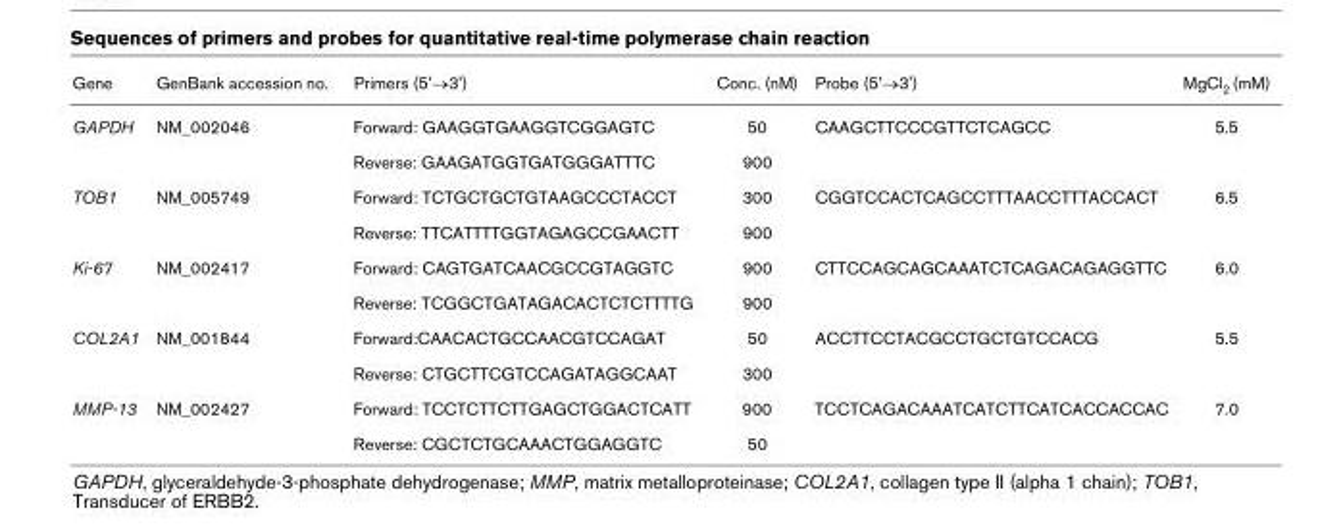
<table><thead><tr><td>Gene</td><td>GenBank accession no.</td><td>Primers (5&#x27;→3&#x27;)</td><td>Conc. (nM)</td><td>Probe (5&#x27;→3&#x27;)</td><td>MgCl2 (mM)</td></tr></thead><tbody><tr><td rowspan="2">GAPDH</td><td>NM_002046</td><td>Forward: GAAGGTGAAGGTCGGAGTC</td><td>50</td><td>CAAGCTTCCCGTTCTCAGCC</td><td>5.5</td></tr><tr><td></td><td>Reverse: GAAGATGGTGATGGGATTTC</td><td>900</td><td></td><td></td></tr><tr><td rowspan="2">TOB1</td><td>NM_005749</td><td>Forward: TCTGCTGCTGTAAGCCCTACCT</td><td>300</td><td>CGGTCCACTCAGCCTTTAACCTTTACCACT</td><td>6.5</td></tr><tr><td></td><td>Reverse: TTCATTTTGGTAGAGCCGAACTT</td><td>900</td><td></td><td></td></tr><tr><td rowspan="2">Ki-67</td><td>NM_002417</td><td>Forward: CAGTGATCAACGCCGTAGGTC</td><td>900</td><td>CTTCCAGCAGCAAATCTCAGACAGAGGTTC</td><td>6.0</td></tr><tr><td></td><td>Reverse: TCGGCTGATAGACACTCTCTTTTG</td><td>900</td><td></td><td></td></tr><tr><td rowspan="2">COL2A1</td><td>NM_001844</td><td>Forward:CAACACTGCCAACGTCCAGAT</td><td>50</td><td>ACCTTCCTACGCCTGCTGTCCACG</td><td>5.5</td></tr><tr><td></td><td>Reverse: CTGCTTCGTCCAGATAGGCAAT</td><td>300</td><td></td><td></td></tr><tr><td rowspan="2">MMP-13</td><td>NM_002427</td><td>Forward: TCCTCTTCTTGAGCTGGACTCATT</td><td>900</td><td>TCCTCAGACAAATCATCTTCATCACCACCAC</td><td>7.0</td></tr><tr><td></td><td>Reverse: CGCTCTGCAAACTGGAGGTC</td><td>50</td><td></td><td></td></tr></tbody></table>